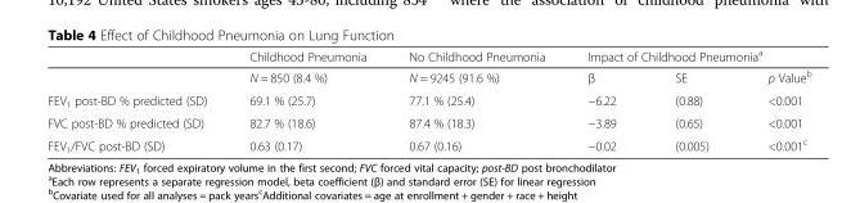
<table><thead><tr><td rowspan="2"></td><td rowspan="2">Childhood Pneumonia N = 850 (8.4 %)</td><td rowspan="2">No Childhood Pneumonia N = 9245 (91.6 %)</td><td colspan="3">Impact of Childhood Pneumonia<sup>a</sup></td></tr><tr><td>β</td><td>SE</td><td>p Value<sup>b</sup></td></tr></thead><tbody><tr><td>FEV<sub>1</sub> post-BD % predicted (SD)</td><td>69.1 % (25.7)</td><td>77.1 % (25.4)</td><td>−6.22</td><td>(0.88)</td><td>&lt;0.001</td></tr><tr><td>FVC post-BD % predicted (SD)</td><td>82.7 % (18.6)</td><td>87.4 % (18.3)</td><td>−3.89</td><td>(0.65)</td><td>&lt;0.001</td></tr><tr><td>FEV<sub>1</sub>/FVC post-BD (SD)</td><td>0.63 (0.17)</td><td>0.67 (0.16)</td><td>−0.02</td><td>(0.005)</td><td>&lt;0.001<sup>c</sup></td></tr></tbody></table>